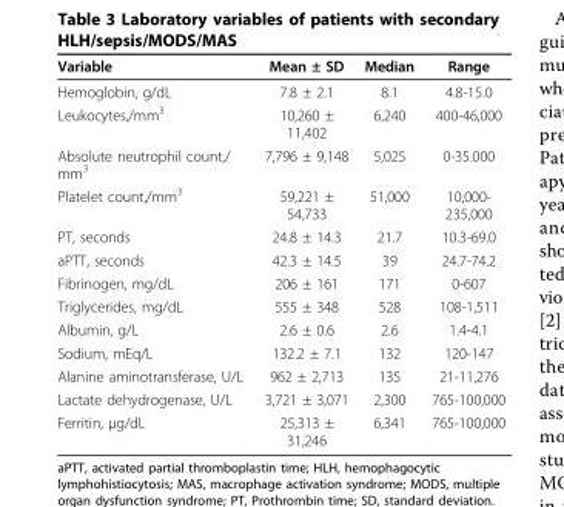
<table><thead><tr><td>Variable</td><td>Mean ± SD</td><td>Median</td><td>Range</td></tr></thead><tbody><tr><td>Hemoglobin, g/dL</td><td>7.8 ± 2.1</td><td>8.1</td><td>4.8-15.0</td></tr><tr><td>Leukocytes,/mm<sup>3</sup></td><td>10,260 ± 11,402</td><td>6,240</td><td>400-46,000</td></tr><tr><td>Absolute neutrophil count,/ mm<sup>3</sup></td><td>7,796 ± 9,148</td><td>5,025</td><td>0-35.000</td></tr><tr><td>Platelet count,/mm<sup>3</sup></td><td>59,221 ± 54,733</td><td>51,000</td><td>10,000- 235,000</td></tr><tr><td>PT, seconds</td><td>24.8 ± 14.3</td><td>21.7</td><td>10.3-69.0</td></tr><tr><td>aPTT, seconds</td><td>42.3 ± 14.5</td><td>39</td><td>24.7-74.2</td></tr><tr><td>Fibrinogen, mg/dL</td><td>206 ± 161</td><td>171</td><td>0-607</td></tr><tr><td>Triglycerides, mg/dL</td><td>555 ± 348</td><td>528</td><td>108-1,511</td></tr><tr><td>Albumin, g/L</td><td>2.6 ± 0.6</td><td>2.6</td><td>1.4-4.1</td></tr><tr><td>Sodium, mEq/L</td><td>132.2 ± 7.1</td><td>132</td><td>120-147</td></tr><tr><td>Alanine aminotransferase, U/L</td><td>962 ± 2,713</td><td>135</td><td>21-11,276</td></tr><tr><td>Lactate dehydrogenase, U/L</td><td>3,721 ± 3,071</td><td>2,300</td><td>765-100,000</td></tr><tr><td>Ferritin, μg/dL</td><td>25,313 ± 31,246</td><td>6,341</td><td>765-100,000</td></tr></tbody></table>